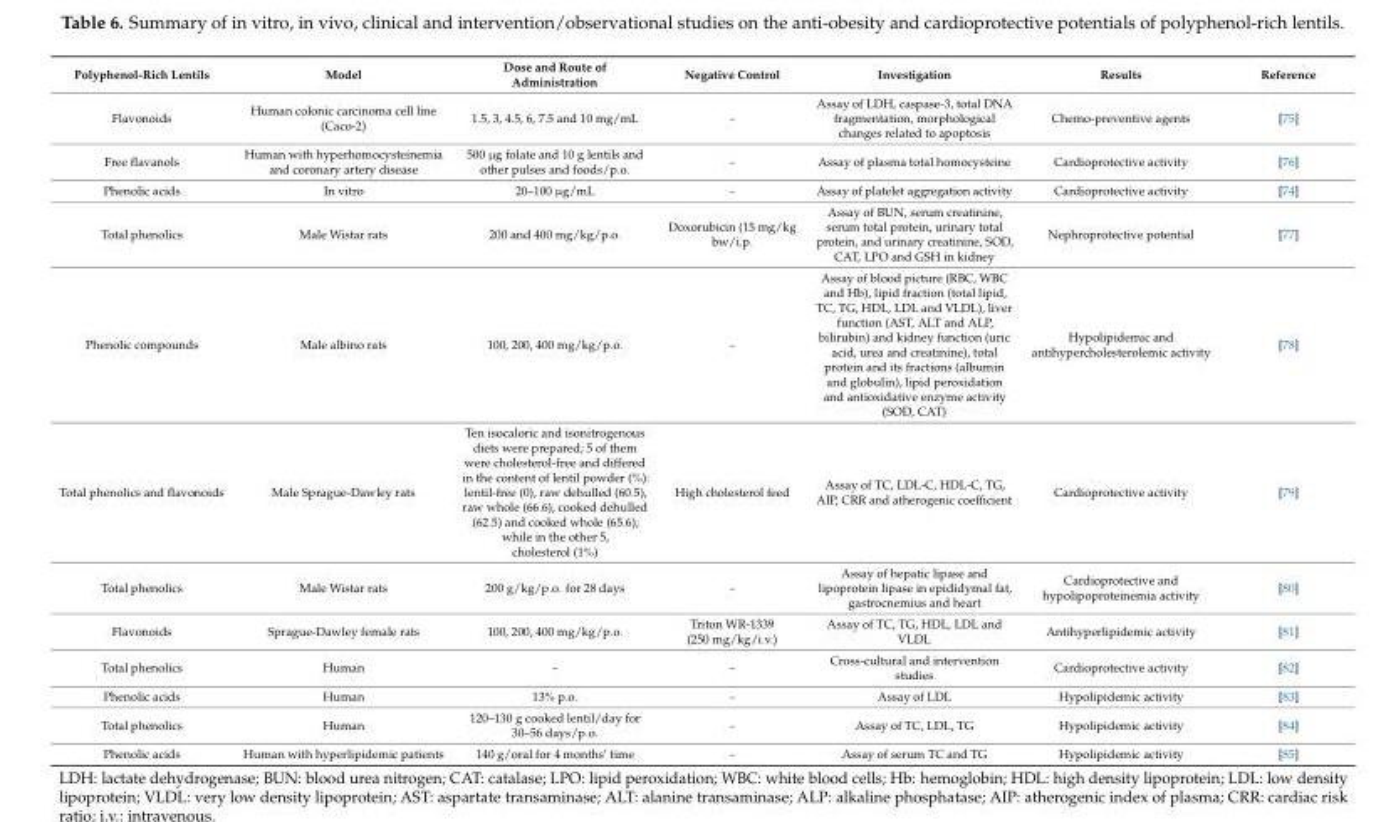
<table><thead><tr><td>Polyphenol-Rich Lentils</td><td>Model</td><td>Dose and Route of Administration</td><td>Negative Control</td><td>Investigation</td><td>Results</td><td>Reference</td></tr></thead><tbody><tr><td>Flavonoids</td><td>Human colonic carcinoma cell line (Caco-2)</td><td>1.5, 3, 4.5, 6, 7.5 and 10 mg/mL</td><td>-</td><td>Assay of LDH, caspase-3, total DNA fragmentation, morphological changes related to apoptosis</td><td>Chemo-preventive agents</td><td>[75]</td></tr><tr><td>Free flavanols</td><td>Human with hyperhomocysteinemia and coronary artery disease</td><td>500 µg folate and 10 g lentils and other pulses and foods/p.o.</td><td>-</td><td>Assay of plasma total homocysteine</td><td>Cardioprotective activity</td><td>[76]</td></tr><tr><td>Phenolic acids</td><td>In vitro</td><td>20–100 µg/mL</td><td>-</td><td>Assay of platelet aggregation activity</td><td>Cardioprotective activity</td><td>[74]</td></tr><tr><td>Total phenolics</td><td>Male Wistar rats</td><td>200 and 400 mg/kg/p.o.</td><td>Doxorubicin (15 mg/kg bw/i.p.</td><td>Assay of BUN, serum creatinine, serum total protein, urinary total protein, and urinary creatinine, SOD, CAT, LPO and GSH in kidney</td><td>Nephroprotective potential</td><td>[77]</td></tr><tr><td>Phenolic compounds</td><td>Male albino rats</td><td>100, 200, 400 mg/kg/p.o.</td><td>-</td><td>Assay of blood picture (RBC, WBC and Hb), lipid fraction (total lipid, TC, TG, HDL, LDL and VLDL), liver function (AST, ALT and ALP, bilirubin) and kidney function (uric acid, urea and creatinine), total protein and its fractions (albumin and globulin), lipid peroxidation and antioxidative enzyme activity (SOD, CAT)</td><td>Hypolipidemic and antihypercholesterolemic activity</td><td>[78]</td></tr><tr><td>Total phenolics and flavonoids</td><td>Male Sprague-Dawley rats</td><td>Ten isocaloric and isonitrogenous diets were prepared; 5 of them were cholesterol-free and differed in the content of lentil powder (%): lentil-free (0), raw dehulled (60.5), raw whole (66.6), cooked dehulled (62.5) and cooked whole (65.6); while in the other 5, cholesterol (1%)</td><td>High cholesterol feed</td><td>Assay of TC, LDL-C, HDL-C, TG, AIP, CRR and atherogenic coefficient</td><td>Cardioprotective activity</td><td>[79]</td></tr><tr><td>Total phenolics</td><td>Male Wistar rats</td><td>200 g/kg/p.o. for 28 days</td><td>-</td><td>Assay of hepatic lipase and lipoprotein lipase in epididymal fat, gastrocnemius and heart</td><td>Cardioprotective and hypolipoproteinemia activity</td><td>[80]</td></tr><tr><td>Flavonoids</td><td>Sprague-Dawley female rats</td><td>100, 200, 400 mg/kg/p.o.</td><td>Triton WR-1339 (250 mg/kg/i.v.)</td><td>Assay of TC, TG, HDL, LDL and VLDL</td><td>Antihyperlipidemic activity</td><td>[81]</td></tr><tr><td>Total phenolics</td><td>Human</td><td>-</td><td>-</td><td>Cross-cultural and intervention studies</td><td>Cardioprotective activity</td><td>[82]</td></tr><tr><td>Phenolic acids</td><td>Human</td><td>13% p.o.</td><td>-</td><td>Assay of LDL</td><td>Hypolipidemic activity</td><td>[83]</td></tr><tr><td>Total phenolics</td><td>Human</td><td>120–130 g cooked lentil/day for 30–56 days/p.o.</td><td>-</td><td>Assay of TC, LDL, TG</td><td>Hypolipidemic activity</td><td>[84]</td></tr><tr><td>Phenolic acids</td><td>Human with hyperlipidemic patients</td><td>140 g/oral for 4 months’ time</td><td>-</td><td>Assay of serum TC and TG</td><td>Hypolipidemic activity</td><td>[85]</td></tr></tbody></table>